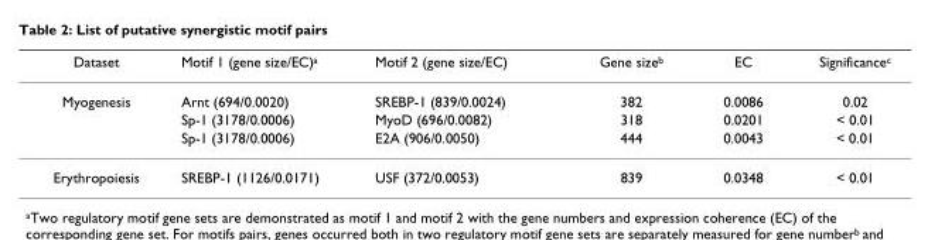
<table><thead><tr><td>Dataset</td><td>Motif 1 (gene size/EC)<sup>a</sup></td><td>Motif 2 (gene size/EC)</td><td>Gene size<sup>b</sup></td><td>EC</td><td>Significance<sup>c</sup></td></tr></thead><tbody><tr><td rowspan="3">Myogenesis</td><td>Arnt (694/0.0020)</td><td>SREBP-1 (839/0.0024)</td><td>382</td><td>0.0086</td><td>0.02</td></tr><tr><td>Sp-1 (3178/0.0006)</td><td>MyoD (696/0.0082)</td><td>318</td><td>0.0201</td><td>&lt; 0.01</td></tr><tr><td>Sp-1 (3178/0.0006)</td><td>E2A (906/0.0050)</td><td>444</td><td>0.0043</td><td>&lt; 0.01</td></tr><tr><td>Erythropoiesis</td><td>SREBP-1 (1126/0.0171)</td><td>USF (372/0.0053)</td><td>839</td><td>0.0348</td><td>&lt; 0.01</td></tr></tbody></table>